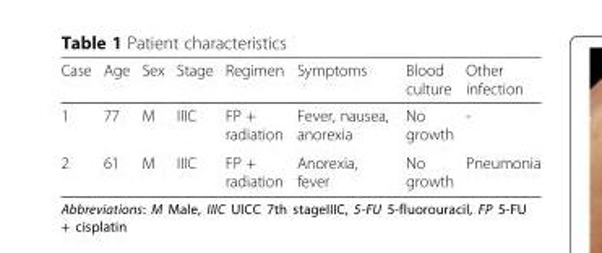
<table><thead><tr><td>Case</td><td>Age</td><td>Sex</td><td>Stage</td><td>Regimen</td><td>Symptoms</td><td>Blood culture</td><td>Other infection</td></tr></thead><tbody><tr><td>1</td><td>77</td><td>M</td><td>IIIC</td><td>FP + radiation</td><td>Fever, nausea, anorexia</td><td>No growth</td><td>-</td></tr><tr><td>2</td><td>61</td><td>M</td><td>IIIC</td><td>FP + radiation</td><td>Anorexia, fever</td><td>No growth</td><td>Pneumonia</td></tr></tbody></table>